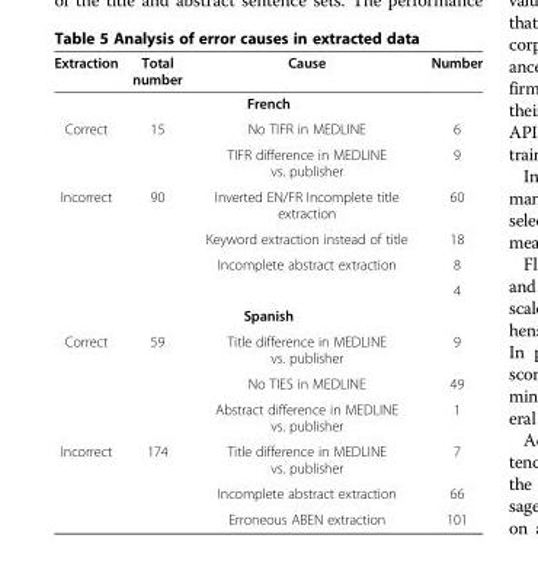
<table><thead><tr><td>Extraction</td><td>Total number</td><td>Cause</td><td>Number</td></tr></thead><tbody><tr><td colspan="4">French</td></tr><tr><td rowspan="2">Correct</td><td rowspan="2">15</td><td>No TIFR in MEDLINE</td><td>6</td></tr><tr><td>TIFR difference in MEDLINE vs. publisher</td><td>9</td></tr><tr><td rowspan="4">Incorrect</td><td rowspan="4">90</td><td>Inverted EN/FR Incomplete title extraction</td><td>60</td></tr><tr><td>Keyword extraction instead of title</td><td>18</td></tr><tr><td rowspan="2">Incomplete abstract extraction</td><td>8</td></tr><tr><td>4</td></tr><tr><td colspan="4">Spanish</td></tr><tr><td rowspan="3">Correct</td><td rowspan="3">59</td><td>Title difference in MEDLINE vs. publisher</td><td>9</td></tr><tr><td>No TIES in MEDLINE</td><td>49</td></tr><tr><td>Abstract difference in MEDLINE vs. publisher</td><td>1</td></tr><tr><td rowspan="3">Incorrect</td><td rowspan="2">174</td><td>Title difference in MEDLINE vs. publisher</td><td>7</td></tr><tr><td>Incomplete abstract extraction</td><td>66</td></tr><tr><td></td><td>Erroneous ABEN extraction</td><td>101</td></tr></tbody></table>